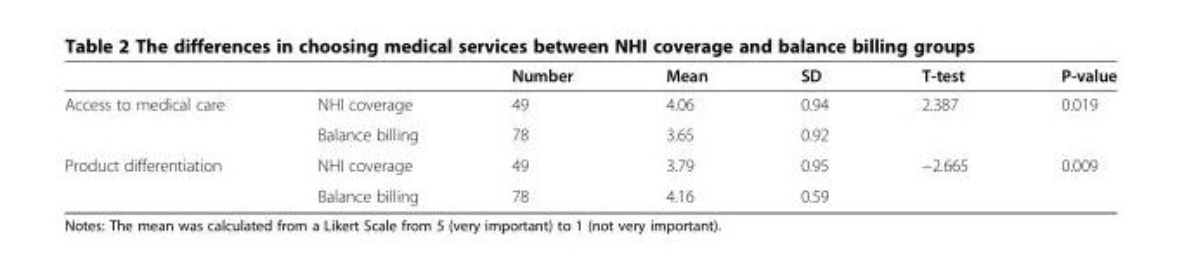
<table><thead><tr><td></td><td></td><td>Number</td><td>Mean</td><td>SD</td><td>T-test</td><td>P-value</td></tr></thead><tbody><tr><td rowspan="2">Access to medical care</td><td>NHI coverage</td><td>49</td><td>4.06</td><td>0.94</td><td rowspan="2">2.387</td><td rowspan="2">0.019</td></tr><tr><td>Balance billing</td><td>78</td><td>3.65</td><td>0.92</td></tr><tr><td rowspan="2">Product differentiation</td><td>NHI coverage</td><td>49</td><td>3.79</td><td>0.95</td><td rowspan="2">−2.665</td><td rowspan="2">0.009</td></tr><tr><td>Balance billing</td><td>78</td><td>4.16</td><td>0.59</td></tr></tbody></table>